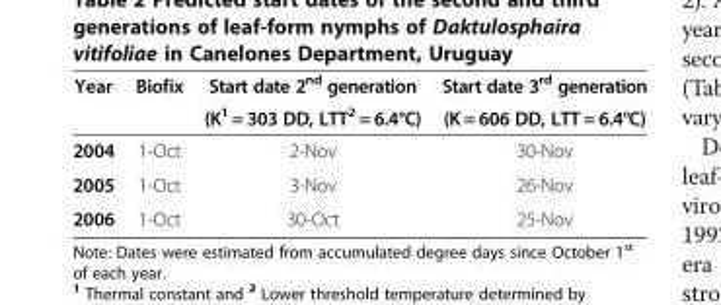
<table><thead><tr><td rowspan="2">Year</td><td rowspan="2">Biofix</td><td rowspan="2">Start date 2<sup>nd</sup> generation (K<sup>1</sup> = 303 DD, LTT<sup>2</sup> = 6.4°C)</td><td rowspan="2">Start date 3<sup>rd</sup> generation (K = 606 DD, LTT = 6.4°C)</td></tr><tr></tr></thead><tbody><tr><td>2004</td><td>1-Oct</td><td>2-Nov</td><td>30-Nov</td></tr><tr><td>2005</td><td>1-Oct</td><td>3-Nov</td><td>26-Nov</td></tr><tr><td>2006</td><td>1-Oct</td><td>30-Oct</td><td>25-Nov</td></tr></tbody></table>